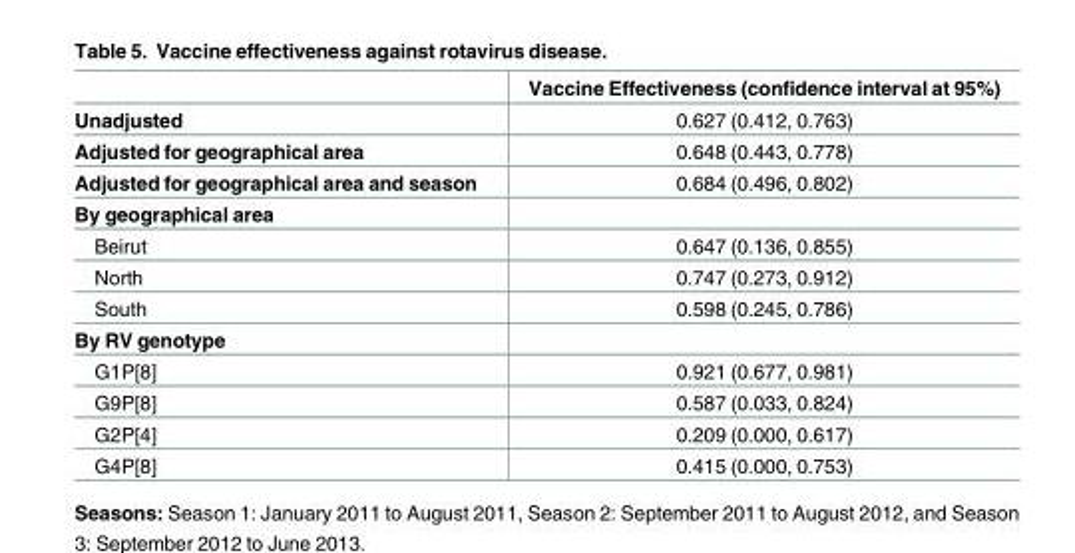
<table><thead><tr><td></td><td>Vaccine Effectiveness (confidence interval at 95%)</td></tr></thead><tbody><tr><td>Unadjusted</td><td>0.627 (0.412, 0.763)</td></tr><tr><td>Adjusted for geographical area</td><td>0.648 (0.443, 0.778)</td></tr><tr><td>Adjusted for geographical area and season</td><td>0.684 (0.496, 0.802)</td></tr><tr><td colspan="2">By geographical area</td></tr><tr><td>Beirut</td><td>0.647 (0.136, 0.855)</td></tr><tr><td>North</td><td>0.747 (0.273, 0.912)</td></tr><tr><td>South</td><td>0.598 (0.245, 0.786)</td></tr><tr><td colspan="2">By RV genotype</td></tr><tr><td>G1P[8]</td><td>0.921 (0.677, 0.981)</td></tr><tr><td>G9P[8]</td><td>0.587 (0.033, 0.824)</td></tr><tr><td>G2P[4]</td><td>0.209 (0.000, 0.617)</td></tr><tr><td>G4P[8]</td><td>0.415 (0.000, 0.753)</td></tr></tbody></table>